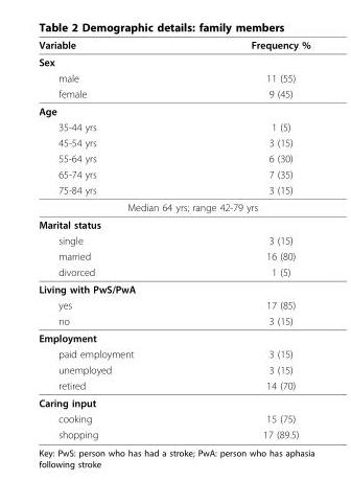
<table><thead><tr><td>Variable</td><td>Frequency %</td></tr></thead><tbody><tr><td colspan="2">Sex</td></tr><tr><td>male</td><td>11 (55)</td></tr><tr><td>female</td><td>9 (45)</td></tr><tr><td colspan="2">Age</td></tr><tr><td>35-44 yrs</td><td>1 (5)</td></tr><tr><td>45-54 yrs</td><td>3 (15)</td></tr><tr><td>55-64 yrs</td><td>6 (30)</td></tr><tr><td>65-74 yrs</td><td>7 (35)</td></tr><tr><td>75-84 yrs</td><td>3 (15)</td></tr><tr><td colspan="2">Median 64 yrs; range 42-79 yrs</td></tr><tr><td colspan="2">Marital status</td></tr><tr><td>single</td><td>3 (15)</td></tr><tr><td>married</td><td>16 (80)</td></tr><tr><td>divorced</td><td>1 (5)</td></tr><tr><td colspan="2">Living with PwS/PwA</td></tr><tr><td>yes</td><td>17 (85)</td></tr><tr><td>no</td><td>3 (15)</td></tr><tr><td colspan="2">Employment</td></tr><tr><td>paid employment</td><td>3 (15)</td></tr><tr><td>unemployed</td><td>3 (15)</td></tr><tr><td>retired</td><td>14 (70)</td></tr><tr><td colspan="2">Caring input</td></tr><tr><td>cooking</td><td>15 (75)</td></tr><tr><td>shopping</td><td>17 (89.5)</td></tr></tbody></table>